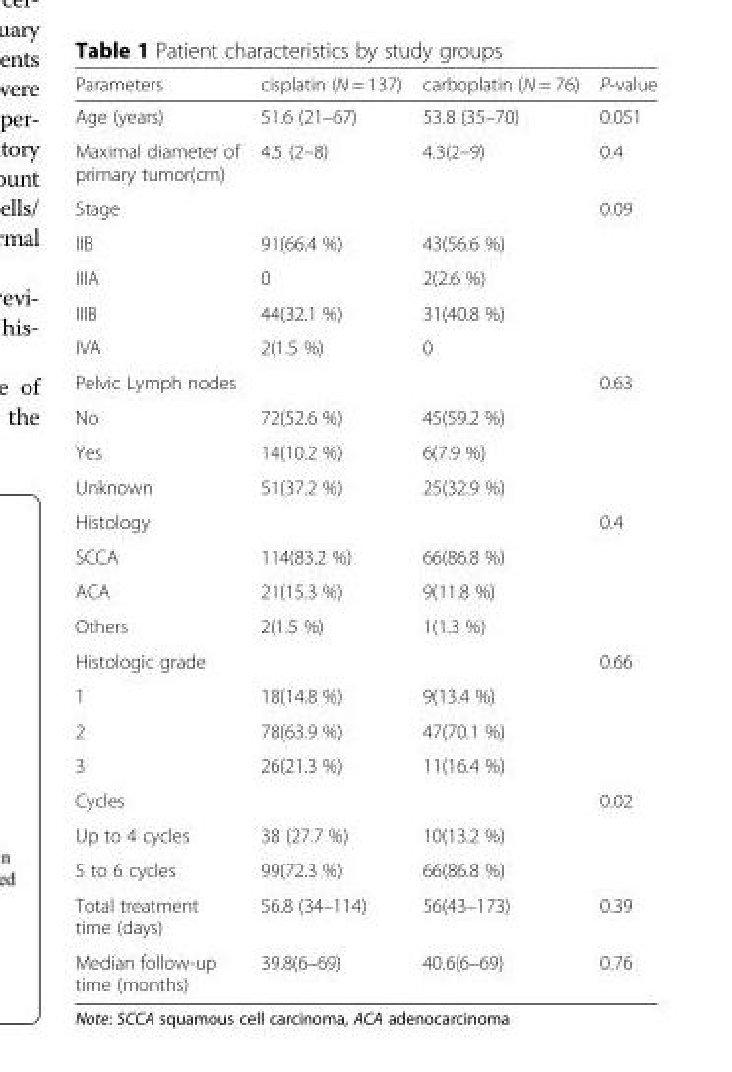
<table><thead><tr><td>Parameters</td><td>cisplatin (N = 137)</td><td>carboplatin (N = 76)</td><td>P-value</td></tr></thead><tbody><tr><td>Age (years)</td><td>51.6 (21–67)</td><td>53.8 (35–70)</td><td>0.051</td></tr><tr><td>Maximal diameter of primary tumor(cm)</td><td>4.5 (2–8)</td><td>4.3(2–9)</td><td>0.4</td></tr><tr><td colspan="3">Stage</td><td rowspan="5">0.09</td></tr><tr><td>IIB</td><td>91(66.4 %)</td><td>43(56.6 %)</td></tr><tr><td>IIIA</td><td>0</td><td>2(2.6 %)</td></tr><tr><td>IIIB</td><td>44(32.1 %)</td><td>31(40.8 %)</td></tr><tr><td>IVA</td><td>2(1.5 %)</td><td>0</td></tr><tr><td colspan="3">Pelvic Lymph nodes</td><td rowspan="4">0.63</td></tr><tr><td>No</td><td>72(52.6 %)</td><td>45(59.2 %)</td></tr><tr><td>Yes</td><td>14(10.2 %)</td><td>6(7.9 %)</td></tr><tr><td>Unknown</td><td>51(37.2 %)</td><td>25(32.9 %)</td></tr><tr><td colspan="3">Histology</td><td rowspan="4">0.4</td></tr><tr><td>SCCA</td><td>114(83.2 %)</td><td>66(86.8 %)</td></tr><tr><td>ACA</td><td>21(15.3 %)</td><td>9(11.8 %)</td></tr><tr><td>Others</td><td>2(1.5 %)</td><td>1(1.3 %)</td></tr><tr><td colspan="3">Histologic grade</td><td rowspan="4">0.66</td></tr><tr><td>1</td><td>18(14.8 %)</td><td>9(13.4 %)</td></tr><tr><td>2</td><td>78(63.9 %)</td><td>47(70.1 %)</td></tr><tr><td>3</td><td>26(21.3 %)</td><td>11(16.4 %)</td></tr><tr><td colspan="3">Cycles</td><td rowspan="3">0.02</td></tr><tr><td>Up to 4 cycles</td><td>38 (27.7 %)</td><td>10(13.2 %)</td></tr><tr><td>5 to 6 cycles</td><td>99(72.3 %)</td><td>66(86.8 %)</td></tr><tr><td>Total treatment time (days)</td><td>56.8 (34–114)</td><td>56(43–173)</td><td>0.39</td></tr><tr><td>Median follow-up time (months)</td><td>39.8(6–69)</td><td>40.6(6–69)</td><td>0.76</td></tr></tbody></table>